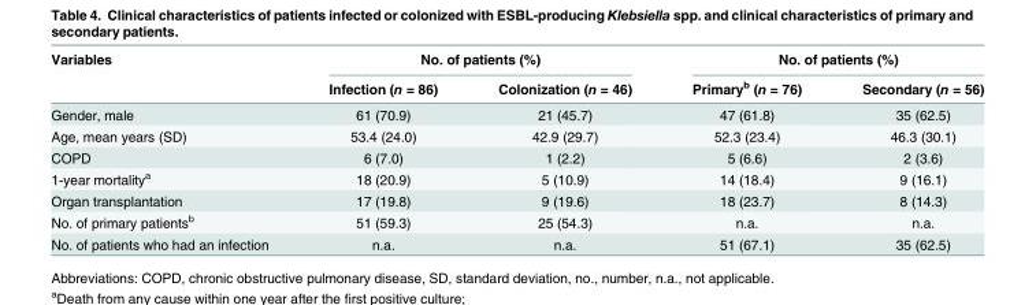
<table><thead><tr><td rowspan="2">Variables</td><td colspan="2">No. of patients (%)</td><td colspan="2">No. of patients (%)</td></tr><tr><td>Infection (n = 86)</td><td>Colonization (n = 46)</td><td>Primary<sup>b</sup> (n = 76)</td><td>Secondary (n = 56)</td></tr></thead><tbody><tr><td>Gender, male</td><td>61 (70.9)</td><td>21 (45.7)</td><td>47 (61.8)</td><td>35 (62.5)</td></tr><tr><td>Age, mean years (SD)</td><td>53.4 (24.0)</td><td>42.9 (29.7)</td><td>52.3 (23.4)</td><td>46.3 (30.1)</td></tr><tr><td>COPD</td><td>6 (7.0)</td><td>1 (2.2)</td><td>5 (6.6)</td><td>2 (3.6)</td></tr><tr><td>1-year mortality<sup>a</sup></td><td>18 (20.9)</td><td>5 (10.9)</td><td>14 (18.4)</td><td>9 (16.1)</td></tr><tr><td>Organ transplantation</td><td>17 (19.8)</td><td>9 (19.6)</td><td>18 (23.7)</td><td>8 (14.3)</td></tr><tr><td>No. of primary patients<sup>b</sup></td><td>51 (59.3)</td><td>25 (54.3)</td><td>n.a.</td><td>n.a.</td></tr><tr><td>No. of patients who had an infection</td><td>n.a.</td><td>n.a.</td><td>51 (67.1)</td><td>35 (62.5)</td></tr></tbody></table>